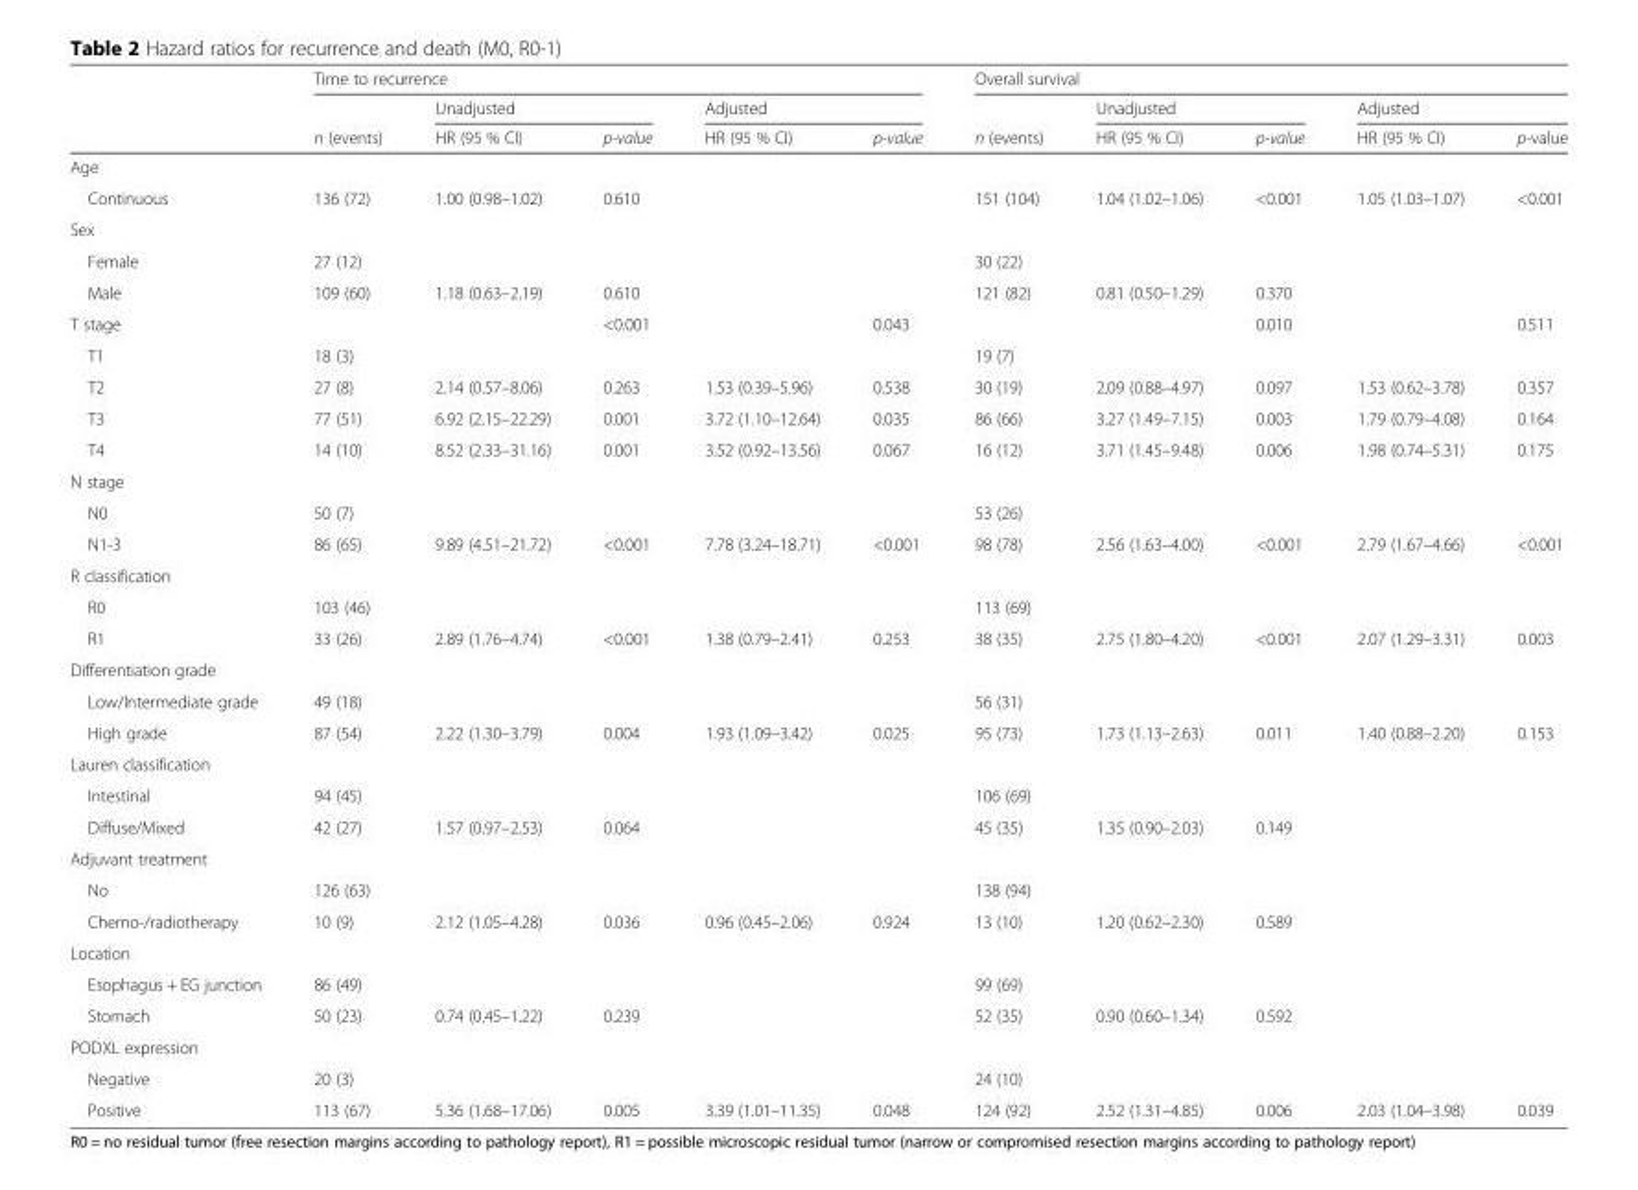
<table><thead><tr><td rowspan="3"></td><td colspan="5">Time to recurrence</td><td colspan="5">Overall survival</td></tr><tr><td rowspan="2">n (events)</td><td colspan="2">Unadjusted</td><td colspan="2">Adjusted</td><td rowspan="2">n (events)</td><td colspan="2">Unadjusted</td><td colspan="2">Adjusted</td></tr><tr><td>HR (95 % CI)</td><td>p-value</td><td>HR (95 % CI)</td><td>p-value</td><td>HR (95 % CI)</td><td>p-value</td><td>HR (95 % CI)</td><td>p-value</td></tr></thead><tbody><tr><td colspan="11">Age</td></tr><tr><td>Continuous</td><td>136 (72)</td><td>1.00 (0.98–1.02)</td><td>0.610</td><td></td><td></td><td>151 (104)</td><td>1.04 (1.02–1.06)</td><td>&lt;0.001</td><td>1.05 (1.03–1.07)</td><td>&lt;0.001</td></tr><tr><td colspan="11">Sex</td></tr><tr><td>Female</td><td>27 (12)</td><td></td><td></td><td></td><td></td><td>30 (22)</td><td></td><td></td><td rowspan="2"></td><td rowspan="2"></td></tr><tr><td>Male</td><td>109 (60)</td><td>1.18 (0.63–2.19)</td><td>0.610</td><td></td><td></td><td>121 (82)</td><td>0.81 (0.50–1.29)</td><td>0.370</td></tr><tr><td>T stage</td><td></td><td></td><td>&lt;0.001</td><td></td><td>0.043</td><td></td><td></td><td>0.010</td><td></td><td>0.511</td></tr><tr><td>T1</td><td>18 (3)</td><td></td><td></td><td></td><td></td><td>19 (7)</td><td></td><td></td><td></td><td></td></tr><tr><td>T2</td><td>27 (8)</td><td>2.14 (0.57–8.06)</td><td>0.263</td><td>1.53 (0.39–5.96)</td><td>0.538</td><td>30 (19)</td><td>2.09 (0.88–4.97)</td><td>0.097</td><td>1.53 (0.62–3.78)</td><td>0.357</td></tr><tr><td>T3</td><td>77 (51)</td><td>6.92 (2.15–22.29)</td><td>0.001</td><td>3.72 (1.10–12.64)</td><td>0.035</td><td>86 (66)</td><td>3.27 (1.49–7.15)</td><td>0.003</td><td>1.79 (0.79–4.08)</td><td>0.164</td></tr><tr><td>T4</td><td>14 (10)</td><td>8.52 (2.33–31.16)</td><td>0.001</td><td>3.52 (0.92–13.56)</td><td>0.067</td><td>16 (12)</td><td>3.71 (1.45–9.48)</td><td>0.006</td><td>1.98 (0.74–5.31)</td><td>0.175</td></tr><tr><td colspan="11">N stage</td></tr><tr><td>N0</td><td>50 (7)</td><td></td><td></td><td></td><td></td><td>53 (26)</td><td></td><td></td><td></td><td></td></tr><tr><td>N1-3</td><td>86 (65)</td><td>9.89 (4.51–21.72)</td><td>&lt;0.001</td><td>7.78 (3.24–18.71)</td><td>&lt;0.001</td><td>98 (78)</td><td>2.56 (1.63–4.00)</td><td>&lt;0.001</td><td>2.79 (1.67–4.66)</td><td>&lt;0.001</td></tr><tr><td colspan="11">R classification</td></tr><tr><td>R0</td><td>103 (46)</td><td></td><td></td><td></td><td></td><td>113 (69)</td><td></td><td></td><td></td><td></td></tr><tr><td>R1</td><td>33 (26)</td><td>2.89 (1.76–4.74)</td><td>&lt;0.001</td><td>1.38 (0.79–2.41)</td><td>0.253</td><td>38 (35)</td><td>2.75 (1.80–4.20)</td><td>&lt;0.001</td><td>2.07 (1.29–3.31)</td><td>0.003</td></tr><tr><td colspan="11">Differentiation grade</td></tr><tr><td>Low/Intermediate grade</td><td>49 (18)</td><td></td><td></td><td></td><td></td><td>56 (31)</td><td></td><td></td><td></td><td></td></tr><tr><td>High grade</td><td>87 (54)</td><td>2.22 (1.30–3.79)</td><td>0.004</td><td>1.93 (1.09–3.42)</td><td>0.025</td><td>95 (73)</td><td>1.73 (1.13–2.63)</td><td>0.011</td><td>1.40 (0.88–2.20)</td><td>0.153</td></tr><tr><td colspan="11">Lauren classification</td></tr><tr><td>Intestinal</td><td>94 (45)</td><td></td><td></td><td></td><td></td><td>106 (69)</td><td></td><td></td><td rowspan="2"></td><td rowspan="2"></td></tr><tr><td>Diffuse/Mixed</td><td>42 (27)</td><td>1.57 (0.97–2.53)</td><td>0.064</td><td></td><td></td><td>45 (35)</td><td>1.35 (0.90–2.03)</td><td>0.149</td></tr><tr><td colspan="11">Adjuvant treatment</td></tr><tr><td>No</td><td>126 (63)</td><td></td><td></td><td></td><td></td><td>138 (94)</td><td></td><td></td><td rowspan="2"></td><td rowspan="2"></td></tr><tr><td>Chemo-/radiotherapy</td><td>10 (9)</td><td>2.12 (1.05–4.28)</td><td>0.036</td><td>0.96 (0.45–2.06)</td><td>0.924</td><td>13 (10)</td><td>1.20 (0.62–2.30)</td><td>0.589</td></tr><tr><td colspan="11">Location</td></tr><tr><td>Esophagus + EG junction</td><td>86 (49)</td><td></td><td></td><td></td><td></td><td>99 (69)</td><td></td><td></td><td rowspan="2"></td><td rowspan="2"></td></tr><tr><td>Stomach</td><td>50 (23)</td><td>0.74 (0.45–1.22)</td><td>0.239</td><td></td><td></td><td>52 (35)</td><td>0.90 (0.60–1.34)</td><td>0.592</td></tr><tr><td colspan="11">PODXL expression</td></tr><tr><td>Negative</td><td>20 (3)</td><td></td><td></td><td></td><td></td><td>24 (10)</td><td></td><td></td><td></td><td></td></tr><tr><td>Positive</td><td>113 (67)</td><td>5.36 (1.68–17.06)</td><td>0.005</td><td>3.39 (1.01–11.35)</td><td>0.048</td><td>124 (92)</td><td>2.52 (1.31–4.85)</td><td>0.006</td><td>2.03 (1.04–3.98)</td><td>0.039</td></tr></tbody></table>